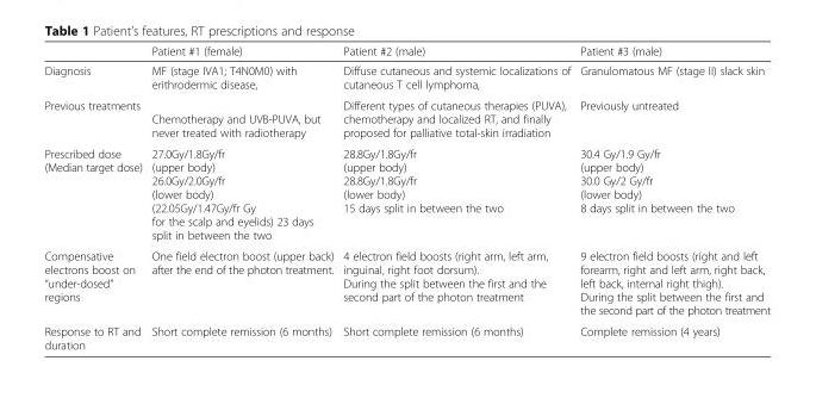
<table><thead><tr><td></td><td>Patient #1 (female)</td><td>Patient #2 (male)</td><td>Patient #3 (male)</td></tr></thead><tbody><tr><td>Diagnosis</td><td>MF (stage IVA1; T4N0M0) with erithrodermic disease,</td><td>Diffuse cutaneous and systemic localizations of cutaneous T cell lymphoma,</td><td>Granulomatous MF (stage II) slack skin</td></tr><tr><td>Previous treatments</td><td>Chemotherapy and UVB-PUVA, but never treated with radiotherapy</td><td>Different types of cutaneous therapies (PUVA), chemotherapy and localized RT, and finally proposed for palliative total-skin irradiation</td><td>Previously untreated</td></tr><tr><td>Prescribed dose (Median target dose)</td><td>27.0Gy/1.8Gy/fr (upper body) 26.0Gy/2.0Gy/fr (lower body) (22.05Gy/1.47Gy/fr Gy for the scalp and eyelids) 23 days split in between the two</td><td>28.8Gy/1.8Gy/fr (upper body) 28.8Gy/1.8Gy/fr (lower body) 15 days split in between the two</td><td>30.4 Gy/1.9 Gy/fr (upper body) 30.0 Gy/2 Gy/fr (lower body) 8 days split in between the two</td></tr><tr><td>Compensative electrons boost on “under-dosed” regions</td><td>One field electron boost (upper back) after the end of the photon treatment.</td><td>4 electron field boosts (right arm, left arm, inguinal, right foot dorsum). During the split between the first and the second part of the photon treatment</td><td>9 electron field boosts (right and left forearm, right and left arm, right back, left back, internal right thigh). During the split between the first and the second part of the photon treatment</td></tr><tr><td>Response to RT and duration</td><td>Short complete remission (6 months)</td><td>Short complete remission (6 months)</td><td>Complete remission (4 years)</td></tr></tbody></table>